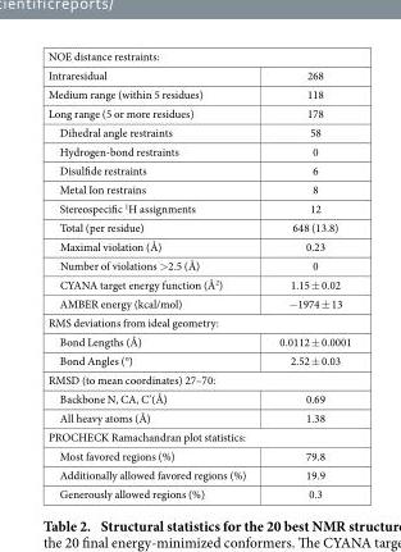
<table><tbody><tr><td colspan="2">NOE distance restraints:</td></tr><tr><td>Intraresidual</td><td>268</td></tr><tr><td>Medium range (within 5 residues)</td><td>118</td></tr><tr><td>Long range (5 or more residues)</td><td>178</td></tr><tr><td>Dihedral angle restraints</td><td>58</td></tr><tr><td>Hydrogen-bond restraints</td><td>0</td></tr><tr><td>Disulfide restraints</td><td>6</td></tr><tr><td>Metal Ion restrains</td><td>8</td></tr><tr><td>Stereospecific <sup>1</sup>H assignments</td><td>12</td></tr><tr><td>Total (per residue)</td><td>648 (13.8)</td></tr><tr><td>Maximal violation (Å)</td><td>0.23</td></tr><tr><td>Number of violations &gt; 2.5 (Å)</td><td>0</td></tr><tr><td>CYANA target energy function (Å<sup>2</sup>)</td><td>1.15 ± 0.02</td></tr><tr><td>AMBER energy (kcal/mol)</td><td>− 1974 ± 13</td></tr><tr><td colspan="2">RMS deviations from ideal geometry:</td></tr><tr><td>Bond Lengths (Å)</td><td>0.0112 ± 0.0001</td></tr><tr><td>Bond Angles (°)</td><td>2.52 ± 0.03</td></tr><tr><td colspan="2">RMSD (to mean coordinates) 27–70:</td></tr><tr><td>Backbone N, CA, C’(Å)</td><td>0.69</td></tr><tr><td>All heavy atoms (Å)</td><td>1.38</td></tr><tr><td colspan="2">PROCHECK Ramachandran plot statistics:</td></tr><tr><td>Most favored regions (%)</td><td>79.8</td></tr><tr><td>Additionally allowed favored regions (%)</td><td>19.9</td></tr><tr><td>Generously allowed regions (%)</td><td>0.3</td></tr></tbody></table>